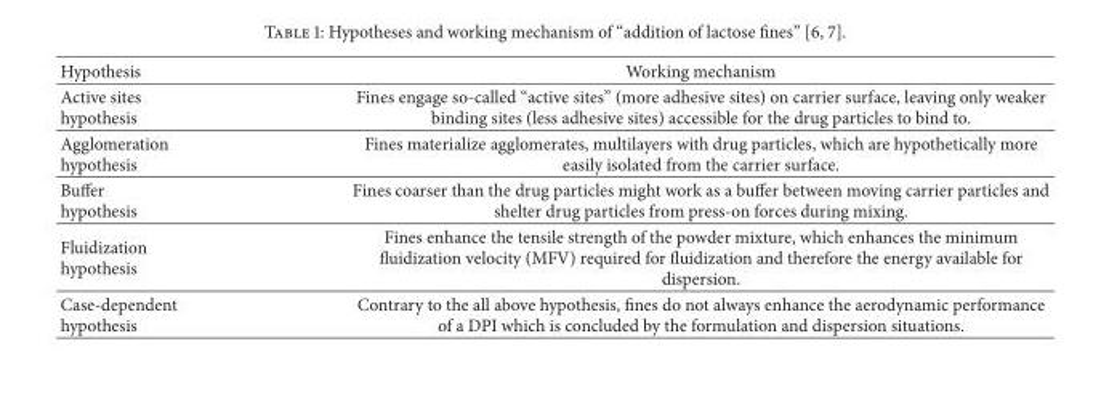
<table><thead><tr><td>Hypothesis</td><td>Working mechanism</td></tr></thead><tbody><tr><td>Active sites hypothesis</td><td>Fines engage so-called “active sites” (more adhesive sites) on carrier surface, leaving only weaker binding sites (less adhesive sites) accessible for the drug particles to bind to.</td></tr><tr><td>Agglomeration hypothesis</td><td>Fines materialize agglomerates, multilayers with drug particles, which are hypothetically more easily isolated from the carrier surface.</td></tr><tr><td>Buffer hypothesis</td><td>Fines coarser than the drug particles might work as a buffer between moving carrier particles and shelter drug particles from press-on forces during mixing.</td></tr><tr><td>Fluidization hypothesis</td><td>Fines enhance the tensile strength of the powder mixture, which enhances the minimum fluidization velocity (MFV) required for fluidization and therefore the energy available for dispersion.</td></tr><tr><td>Case-dependent hypothesis</td><td>Contrary to the all above hypothesis, fines do not always enhance the aerodynamic performance of a DPI which is concluded by the formulation and dispersion situations.</td></tr></tbody></table>